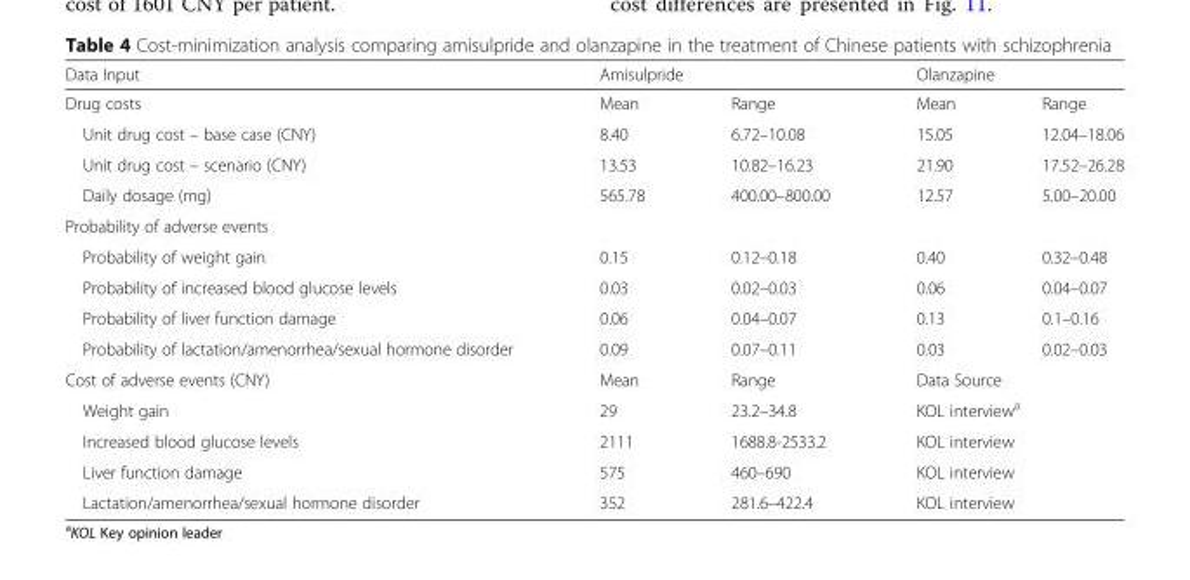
<table><thead><tr><td rowspan="2">Data Input Drug costs</td><td colspan="2">Amisulpride</td><td colspan="2">Olanzapine</td></tr><tr><td>Mean</td><td>Range</td><td>Mean</td><td>Range</td></tr></thead><tbody><tr><td>Unit drug cost – base case (CNY)</td><td>8.40</td><td>6.72–10.08</td><td>15.05</td><td>12.04–18.06</td></tr><tr><td>Unit drug cost – scenario (CNY)</td><td>13.53</td><td>10.82–16.23</td><td>21.90</td><td>17.52–26.28</td></tr><tr><td>Daily dosage (mg)</td><td>565.78</td><td>400.00–800.00</td><td>12.57</td><td>5.00–20.00</td></tr><tr><td colspan="5">Probability of adverse events</td></tr><tr><td>Probability of weight gain</td><td>0.15</td><td>0.12–0.18</td><td>0.40</td><td>0.32–0.48</td></tr><tr><td>Probability of increased blood glucose levels</td><td>0.03</td><td>0.02–0.03</td><td>0.06</td><td>0.04–0.07</td></tr><tr><td>Probability of liver function damage</td><td>0.06</td><td>0.04–0.07</td><td>0.13</td><td>0.1–0.16</td></tr><tr><td>Probability of lactation/amenorrhea/sexual hormone disorder</td><td>0.09</td><td>0.07–0.11</td><td>0.03</td><td>0.02–0.03</td></tr><tr><td>Cost of adverse events (CNY)</td><td>Mean</td><td>Range</td><td colspan="2">Data Source</td></tr><tr><td>Weight gain</td><td>29</td><td>23.2–34.8</td><td colspan="2">KOL interview<sup>a</sup></td></tr><tr><td>Increased blood glucose levels</td><td>2111</td><td>1688.8-2533.2</td><td colspan="2">KOL interview</td></tr><tr><td>Liver function damage</td><td>575</td><td>460–690</td><td colspan="2">KOL interview</td></tr><tr><td>Lactation/amenorrhea/sexual hormone disorder</td><td>352</td><td>281.6–422.4</td><td colspan="2">KOL interview</td></tr></tbody></table>